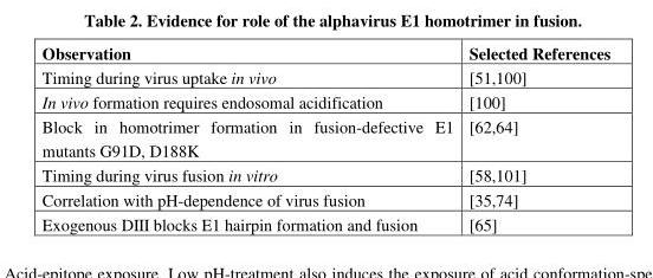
<table><thead><tr><td>Observation</td><td>Selected References</td></tr></thead><tbody><tr><td>Timing during virus uptake in vivo</td><td>[51,100]</td></tr><tr><td>In vivo formation requires endosomal acidification</td><td>[100]</td></tr><tr><td>Block in homotrimer formation in fusion-defective E1 mutants G91D, D188K</td><td>[62,64]</td></tr><tr><td>Timing during virus fusion in vitro</td><td>[58,101]</td></tr><tr><td>Correlation with pH-dependence of virus fusion</td><td>[35,74]</td></tr><tr><td>Exogenous DIII blocks E1 hairpin formation and fusion</td><td>[65]</td></tr></tbody></table>